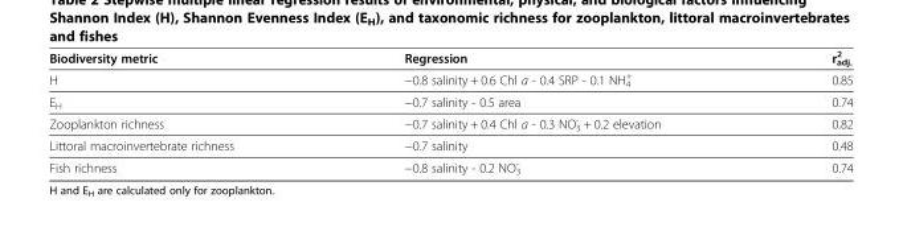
<table><thead><tr><td>Biodiversity metric</td><td>Regression</td><td>r<sup>2</sup> <sub>adj.</sub></td></tr></thead><tbody><tr><td>H</td><td>−0.8 salinity + 0.6 Chl a - 0.4 SRP - 0.1 NH<sub>4</sub> <sup>+</sup></td><td>0.85</td></tr><tr><td>E<sub>H</sub></td><td>−0.7 salinity - 0.5 area</td><td>0.74</td></tr><tr><td>Zooplankton richness</td><td>−0.7 salinity + 0.4 Chl a - 0.3 NO<sub>3</sub> <sup>-</sup> + 0.2 elevation</td><td>0.82</td></tr><tr><td>Littoral macroinvertebrate richness</td><td>−0.7 salinity</td><td>0.48</td></tr><tr><td>Fish richness</td><td>−0.8 salinity - 0.2 NO<sub>3</sub> <sup>-</sup></td><td>0.74</td></tr></tbody></table>